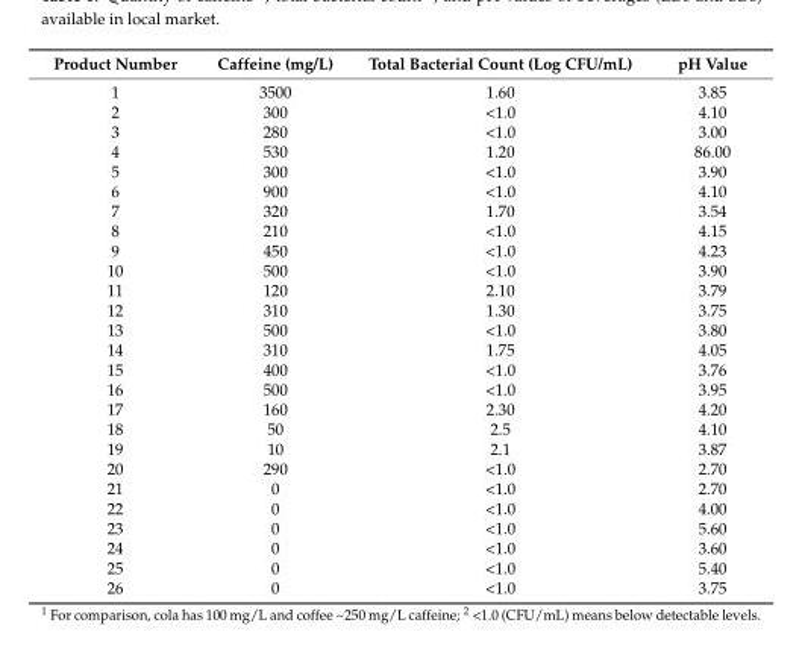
<table><thead><tr><td>Product Number</td><td>Caffeine (mg/L)</td><td>Total Bacterial Count (Log CFU/mL)</td><td>pH Value</td></tr></thead><tbody><tr><td>1</td><td>3500</td><td>1.60</td><td>3.85</td></tr><tr><td>2</td><td>300</td><td>&lt;1.0</td><td>4.10</td></tr><tr><td>3</td><td>280</td><td>&lt;1.0</td><td>3.00</td></tr><tr><td>4</td><td>530</td><td>1.20</td><td>86.00</td></tr><tr><td>5</td><td>300</td><td>&lt;1.0</td><td>3.90</td></tr><tr><td>6</td><td>900</td><td>&lt;1.0</td><td>4.10</td></tr><tr><td>7</td><td>320</td><td>1.70</td><td>3.54</td></tr><tr><td>8</td><td>210</td><td>&lt;1.0</td><td>4.15</td></tr><tr><td>9</td><td>450</td><td>&lt;1.0</td><td>4.23</td></tr><tr><td>10</td><td>500</td><td>&lt;1.0</td><td>3.90</td></tr><tr><td>11</td><td>120</td><td>2.10</td><td>3.79</td></tr><tr><td>12</td><td>310</td><td>1.30</td><td>3.75</td></tr><tr><td>13</td><td>500</td><td>&lt;1.0</td><td>3.80</td></tr><tr><td>14</td><td>310</td><td>1.75</td><td>4.05</td></tr><tr><td>15</td><td>400</td><td>&lt;1.0</td><td>3.76</td></tr><tr><td>16</td><td>500</td><td>&lt;1.0</td><td>3.95</td></tr><tr><td>17</td><td>160</td><td>2.30</td><td>4.20</td></tr><tr><td>18</td><td>50</td><td>2.5</td><td>4.10</td></tr><tr><td>19</td><td>10</td><td>2.1</td><td>3.87</td></tr><tr><td>20</td><td>290</td><td>&lt;1.0</td><td>2.70</td></tr><tr><td>21</td><td>0</td><td>&lt;1.0</td><td>2.70</td></tr><tr><td>22</td><td>0</td><td>&lt;1.0</td><td>4.00</td></tr><tr><td>23</td><td>0</td><td>&lt;1.0</td><td>5.60</td></tr><tr><td>24</td><td>0</td><td>&lt;1.0</td><td>3.60</td></tr><tr><td>25</td><td>0</td><td>&lt;1.0</td><td>5.40</td></tr><tr><td>26</td><td>0</td><td>&lt;1.0</td><td>3.75</td></tr></tbody></table>